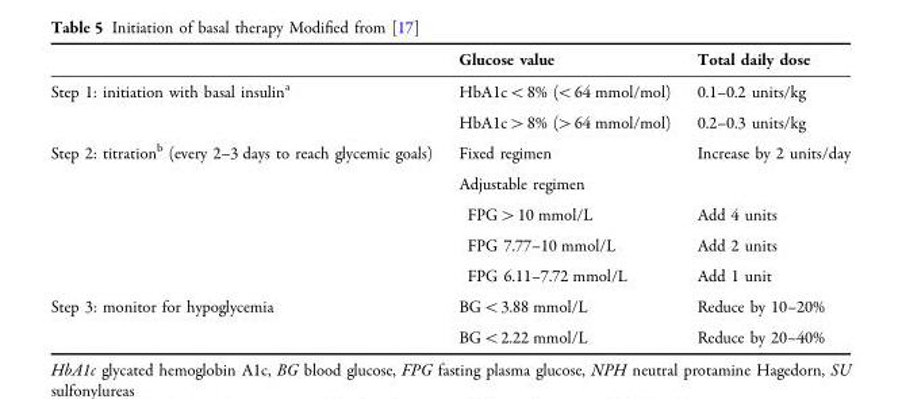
<table><thead><tr><td></td><td>Glucose value</td><td>Total daily dose</td></tr></thead><tbody><tr><td rowspan="2">Step 1: initiation with basal insulin<sup>a</sup></td><td>HbA1c&lt;8% (&lt;64 mmol/mol)</td><td>0.1–0.2 units/kg</td></tr><tr><td>HbA1c&gt;8% (&gt;64 mmol/mol)</td><td>0.2–0.3 units/kg</td></tr><tr><td rowspan="5">Step 2: titration<sup>b</sup> (every 2–3 days to reach glycemic goals)</td><td>Fixed regimen</td><td>Increase by 2 units/day</td></tr><tr><td colspan="2">Adjustable regimen</td></tr><tr><td>FPG&gt;10 mmol/L</td><td>Add 4 units</td></tr><tr><td>FPG 7.77–10 mmol/L</td><td>Add 2 units</td></tr><tr><td>FPG 6.11–7.72 mmol/L</td><td>Add 1 unit</td></tr><tr><td rowspan="2">Step 3: monitor for hypoglycemia</td><td>BG&lt;3.88 mmol/L</td><td>Reduce by 10–20%</td></tr><tr><td>BG&lt;2.22 mmol/L</td><td>Reduce by 20–40%</td></tr></tbody></table>